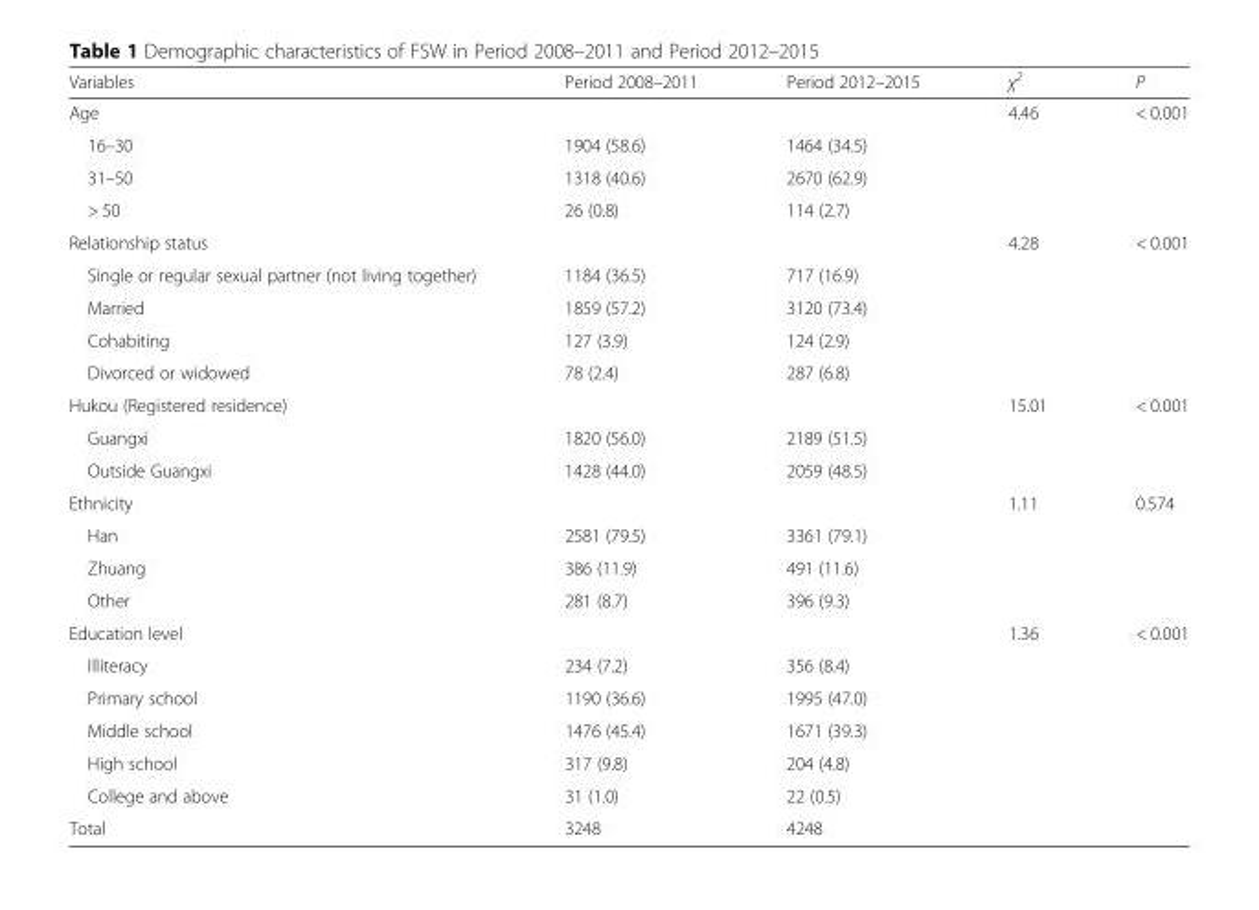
<table><thead><tr><td>Variables</td><td>Period 2008–2011</td><td>Period 2012–2015</td><td>χ<sup>2</sup></td><td>P</td></tr></thead><tbody><tr><td>Age</td><td></td><td></td><td>4.46</td><td>&lt; 0.001</td></tr><tr><td>16–30</td><td>1904 (58.6)</td><td>1464 (34.5)</td><td rowspan="3"></td><td rowspan="3"></td></tr><tr><td>31–50</td><td>1318 (40.6)</td><td>2670 (62.9)</td></tr><tr><td>&gt; 50</td><td>26 (0.8)</td><td>114 (2.7)</td></tr><tr><td>Relationship status</td><td></td><td></td><td>4.28</td><td>&lt; 0.001</td></tr><tr><td>Single or regular sexual partner (not living together)</td><td>1184 (36.5)</td><td>717 (16.9)</td><td rowspan="4"></td><td rowspan="4"></td></tr><tr><td>Married</td><td>1859 (57.2)</td><td>3120 (73.4)</td></tr><tr><td>Cohabiting</td><td>127 (3.9)</td><td>124 (2.9)</td></tr><tr><td>Divorced or widowed</td><td>78 (2.4)</td><td>287 (6.8)</td></tr><tr><td>Hukou (Registered residence)</td><td></td><td></td><td>15.01</td><td>&lt; 0.001</td></tr><tr><td>Guangxi</td><td>1820 (56.0)</td><td>2189 (51.5)</td><td rowspan="2"></td><td rowspan="2"></td></tr><tr><td>Outside Guangxi</td><td>1428 (44.0)</td><td>2059 (48.5)</td></tr><tr><td>Ethnicity</td><td></td><td></td><td>1.11</td><td>0.574</td></tr><tr><td>Han</td><td>2581 (79.5)</td><td>3361 (79.1)</td><td rowspan="3"></td><td rowspan="3"></td></tr><tr><td>Zhuang</td><td>386 (11.9)</td><td>491 (11.6)</td></tr><tr><td>Other</td><td>281 (8.7)</td><td>396 (9.3)</td></tr><tr><td>Education level</td><td></td><td></td><td>1.36</td><td>&lt; 0.001</td></tr><tr><td>Illiteracy</td><td>234 (7.2)</td><td>356 (8.4)</td><td rowspan="5"></td><td rowspan="5"></td></tr><tr><td>Primary school</td><td>1190 (36.6)</td><td>1995 (47.0)</td></tr><tr><td>Middle school</td><td>1476 (45.4)</td><td>1671 (39.3)</td></tr><tr><td>High school</td><td>317 (9.8)</td><td>204 (4.8)</td></tr><tr><td>College and above</td><td>31 (1.0)</td><td>22 (0.5)</td></tr><tr><td>Total</td><td>3248</td><td>4248</td><td></td><td></td></tr></tbody></table>